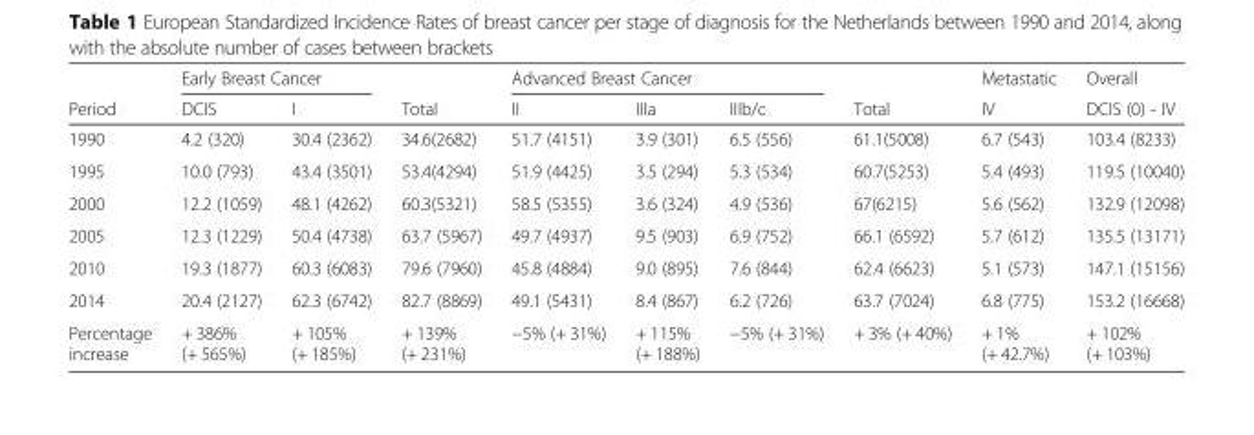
<table><thead><tr><td rowspan="2">Period</td><td colspan="2">Early Breast Cancer</td><td rowspan="2">Total</td><td colspan="3">Advanced Breast Cancer</td><td rowspan="2">Total</td><td rowspan="2">Metastatic IV</td><td rowspan="2">Overall DCIS (0) - IV</td></tr><tr><td>DCIS</td><td>I</td><td>II</td><td>IIIa</td><td>IIIb/c</td></tr></thead><tbody><tr><td>1990</td><td>4.2 (320)</td><td>30.4 (2362)</td><td>34.6(2682)</td><td>51.7 (4151)</td><td>3.9 (301)</td><td>6.5 (556)</td><td>61.1(5008)</td><td>6.7 (543)</td><td>103.4 (8233)</td></tr><tr><td>1995</td><td>10.0 (793)</td><td>43.4 (3501)</td><td>53.4(4294)</td><td>51.9 (4425)</td><td>3.5 (294)</td><td>5.3 (534)</td><td>60.7(5253)</td><td>5.4 (493)</td><td>119.5 (10040)</td></tr><tr><td>2000</td><td>12.2 (1059)</td><td>48.1 (4262)</td><td>60.3(5321)</td><td>58.5 (5355)</td><td>3.6 (324)</td><td>4.9 (536)</td><td>67(6215)</td><td>5.6 (562)</td><td>132.9 (12098)</td></tr><tr><td>2005</td><td>12.3 (1229)</td><td>50.4 (4738)</td><td>63.7 (5967)</td><td>49.7 (4937)</td><td>9.5 (903)</td><td>6.9 (752)</td><td>66.1 (6592)</td><td>5.7 (612)</td><td>135.5 (13171)</td></tr><tr><td>2010</td><td>19.3 (1877)</td><td>60.3 (6083)</td><td>79.6 (7960)</td><td>45.8 (4884)</td><td>9.0 (895)</td><td>7.6 (844)</td><td>62.4 (6623)</td><td>5.1 (573)</td><td>147.1 (15156)</td></tr><tr><td>2014</td><td>20.4 (2127)</td><td>62.3 (6742)</td><td>82.7 (8869)</td><td>49.1 (5431)</td><td>8.4 (867)</td><td>6.2 (726)</td><td>63.7 (7024)</td><td>6.8 (775)</td><td>153.2 (16668)</td></tr><tr><td>Percentage increase</td><td>+ 386% (+ 565%)</td><td>+ 105% (+ 185%)</td><td>+ 139% (+ 231%)</td><td>−5% (+ 31%)</td><td>+ 115% (+ 188%)</td><td>−5% (+ 31%)</td><td>+ 3% (+ 40%)</td><td>+ 1% (+ 42.7%)</td><td>+ 102% (+ 103%)</td></tr></tbody></table>